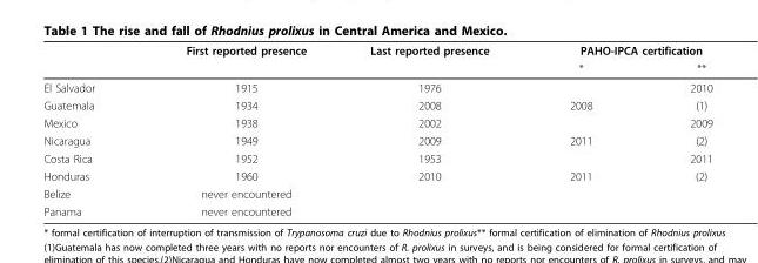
<table><thead><tr><td rowspan="2"></td><td rowspan="2">First reported presence</td><td rowspan="2">Last reported presence</td><td colspan="2">PAHO-IPCA certification</td></tr><tr><td>*</td><td>**</td></tr></thead><tbody><tr><td>El Salvador</td><td>1915</td><td>1976</td><td></td><td>2010</td></tr><tr><td>Guatemala</td><td>1934</td><td>2008</td><td>2008</td><td>(1)</td></tr><tr><td>Mexico</td><td>1938</td><td>2002</td><td></td><td>2009</td></tr><tr><td>Nicaragua</td><td>1949</td><td>2009</td><td>2011</td><td>(2)</td></tr><tr><td>Costa Rica</td><td>1952</td><td>1953</td><td></td><td>2011</td></tr><tr><td>Honduras</td><td>1960</td><td>2010</td><td>2011</td><td>(2)</td></tr><tr><td>Belize</td><td>never encountered</td><td></td><td></td><td></td></tr><tr><td>Panama</td><td>never encountered</td><td></td><td></td><td></td></tr></tbody></table>